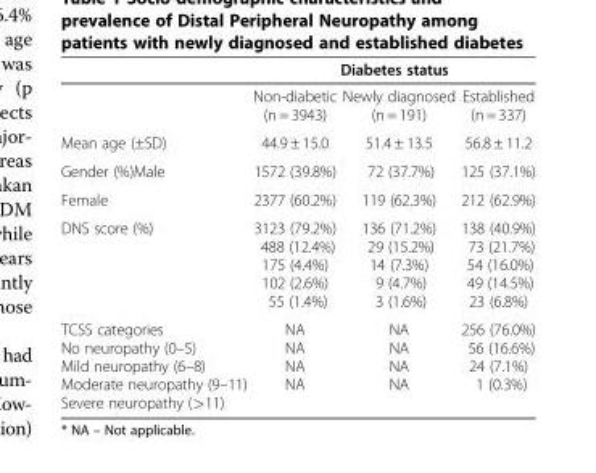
<table><thead><tr><td rowspan="2"></td><td colspan="3">Diabetes status</td></tr><tr><td>Non-diabetic (n = 3943)</td><td>Newly diagnosed (n = 191)</td><td>Established (n = 337)</td></tr></thead><tbody><tr><td>Mean age (±SD)</td><td>44.9 ± 15.0</td><td>51.4 ± 13.5</td><td>56.8 ± 11.2</td></tr><tr><td>Gender (%)Male</td><td>1572 (39.8%)</td><td>72 (37.7%)</td><td>125 (37.1%)</td></tr><tr><td>Female</td><td>2377 (60.2%)</td><td>119 (62.3%)</td><td>212 (62.9%)</td></tr><tr><td>DNS score (%)</td><td>3123 (79.2%) 488 (12.4%) 175 (4.4%) 102 (2.6%) 55 (1.4%)</td><td>136 (71.2%) 29 (15.2%) 14 (7.3%) 9 (4.7%) 3 (1.6%)</td><td>138 (40.9%) 73 (21.7%) 54 (16.0%) 49 (14.5%) 23 (6.8%)</td></tr><tr><td>TCSS categories No neuropathy (0–5) Mild neuropathy (6–8) Moderate neuropathy (9–11) Severe neuropathy (&gt;11)</td><td>NA NA NA NA</td><td>NA NA NA NA</td><td>256 (76.0%) 56 (16.6%) 24 (7.1%) 1 (0.3%)</td></tr></tbody></table>